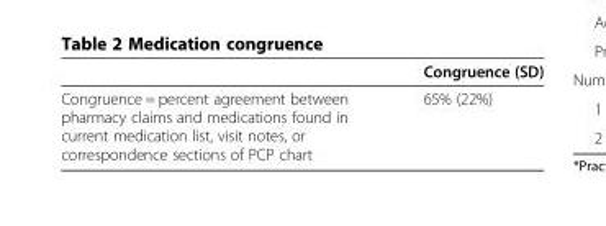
<table><thead><tr><td></td><td>Congruence (SD)</td></tr></thead><tbody><tr><td>Congruence = percent agreement between pharmacy claims and medications found in current medication list, visit notes, or correspondence sections of PCP chart</td><td>65% (22%)</td></tr></tbody></table>